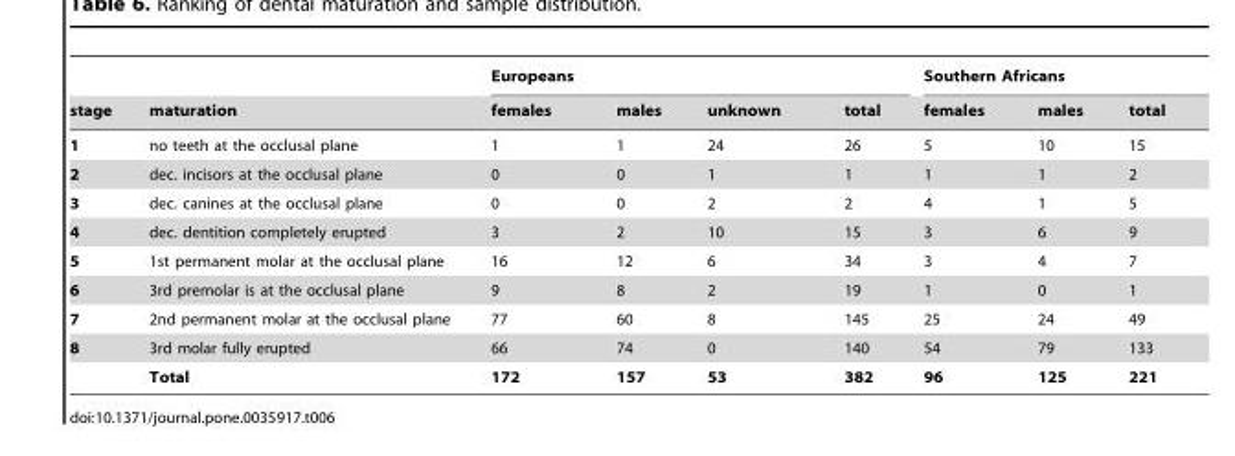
<table><thead><tr><td rowspan="2">stage</td><td rowspan="2">maturation</td><td colspan="4">Europeans</td><td colspan="3">Southern Africans</td></tr><tr><td>females</td><td>males</td><td>unknown</td><td>total</td><td>females</td><td>males</td><td>total</td></tr></thead><tbody><tr><td>1</td><td>no teeth at the occlusal plane</td><td>1</td><td>1</td><td>24</td><td>26</td><td>5</td><td>10</td><td>15</td></tr><tr><td>2</td><td>dec. incisors at the occlusal plane</td><td>0</td><td>0</td><td>1</td><td>1</td><td>1</td><td>1</td><td>2</td></tr><tr><td>3</td><td>dec. canines at the occlusal plane</td><td>0</td><td>0</td><td>2</td><td>2</td><td>4</td><td>1</td><td>5</td></tr><tr><td>4</td><td>dec. dentition completely erupted</td><td>3</td><td>2</td><td>10</td><td>15</td><td>3</td><td>6</td><td>9</td></tr><tr><td>5</td><td>1st permanent molar at the occlusal plane</td><td>16</td><td>12</td><td>6</td><td>34</td><td>3</td><td>4</td><td>7</td></tr><tr><td>6</td><td>3rd premolar is at the occlusal plane</td><td>9</td><td>8</td><td>2</td><td>19</td><td>1</td><td>0</td><td>1</td></tr><tr><td>7</td><td>2nd permanent molar at the occlusal plane</td><td>77</td><td>60</td><td>8</td><td>145</td><td>25</td><td>24</td><td>49</td></tr><tr><td rowspan="2">8</td><td>3rd molar fully erupted</td><td>66</td><td>74</td><td>0</td><td>140</td><td>54</td><td>79</td><td>133</td></tr><tr><td>Total</td><td>172</td><td>157</td><td>53</td><td>382</td><td>96</td><td>125</td><td>221</td></tr></tbody></table>